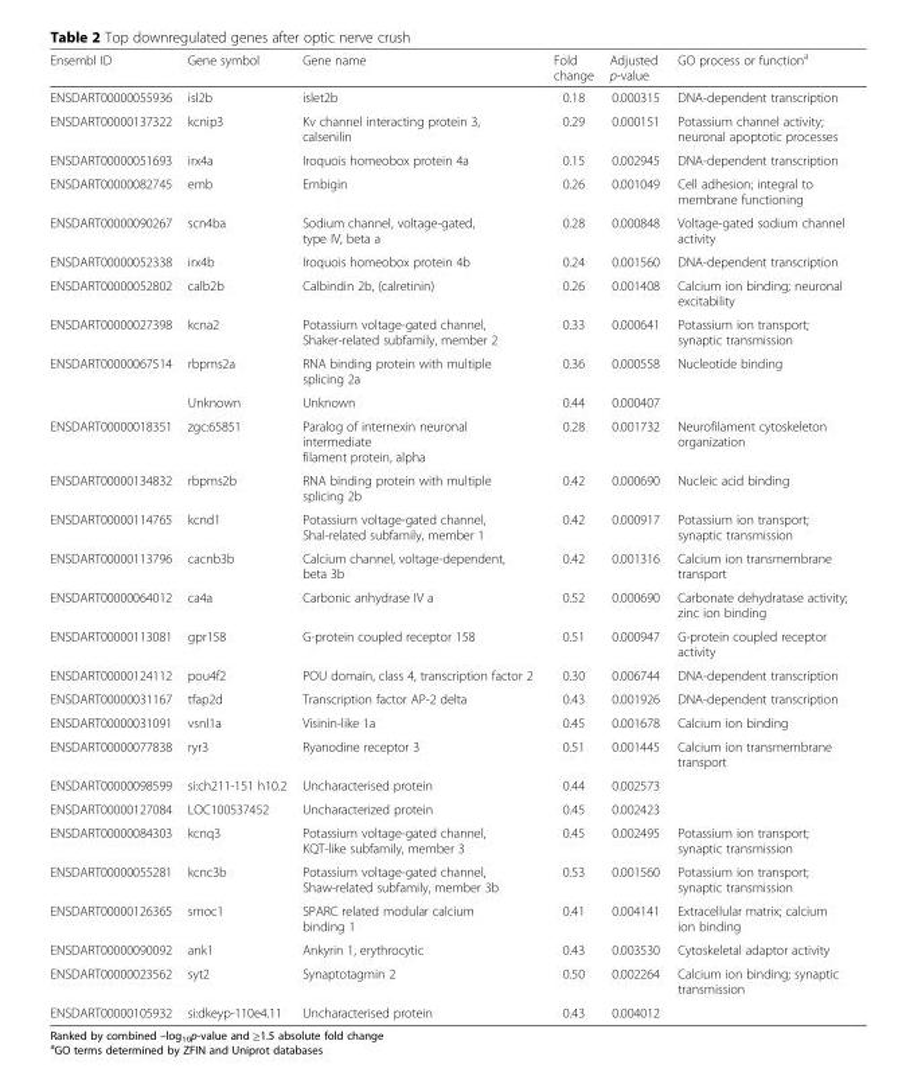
<table><thead><tr><td>Ensembl ID</td><td>Gene symbol</td><td>Gene name</td><td>Fold change</td><td>Adjusted p-value</td><td>GO process or function<sup>a</sup></td></tr></thead><tbody><tr><td>ENSDART00000055936</td><td>isl2b</td><td>islet2b</td><td>0.18</td><td>0.000315</td><td>DNA-dependent transcription</td></tr><tr><td>ENSDART00000137322</td><td>kcnip3</td><td>Kv channel interacting protein 3, calsenilin</td><td>0.29</td><td>0.000151</td><td>Potassium channel activity; neuronal apoptotic processes</td></tr><tr><td>ENSDART00000051693</td><td>irx4a</td><td>Iroquois homeobox protein 4a</td><td>0.15</td><td>0.002945</td><td>DNA-dependent transcription</td></tr><tr><td>ENSDART00000082745</td><td>emb</td><td>Embigin</td><td>0.26</td><td>0.001049</td><td>Cell adhesion; integral to membrane functioning</td></tr><tr><td>ENSDART00000090267</td><td>scn4ba</td><td>Sodium channel, voltage-gated, type IV, beta a</td><td>0.28</td><td>0.000848</td><td>Voltage-gated sodium channel activity</td></tr><tr><td>ENSDART00000052338</td><td>irx4b</td><td>Iroquois homeobox protein 4b</td><td>0.24</td><td>0.001560</td><td>DNA-dependent transcription</td></tr><tr><td>ENSDART00000052802</td><td>calb2b</td><td>Calbindin 2b, (calretinin)</td><td>0.26</td><td>0.001408</td><td>Calcium ion binding; neuronal excitability</td></tr><tr><td>ENSDART00000027398</td><td>kcna2</td><td>Potassium voltage-gated channel, Shaker-related subfamily, member 2</td><td>0.33</td><td>0.000641</td><td>Potassium ion transport; synaptic transmission</td></tr><tr><td rowspan="2">ENSDART00000067514</td><td>rbpms2a</td><td>RNA binding protein with multiple splicing 2a</td><td>0.36</td><td>0.000558</td><td>Nucleotide binding</td></tr><tr><td>Unknown</td><td>Unknown</td><td>0.44</td><td>0.000407</td><td></td></tr><tr><td>ENSDART00000018351</td><td>zgc:65851</td><td>Paralog of internexin neuronal intermediate filament protein, alpha</td><td>0.28</td><td>0.001732</td><td>Neurofilament cytoskeleton organization</td></tr><tr><td>ENSDART00000134832</td><td>rbpms2b</td><td>RNA binding protein with multiple splicing 2b</td><td>0.42</td><td>0.000690</td><td>Nucleic acid binding</td></tr><tr><td>ENSDART00000114765</td><td>kcnd1</td><td>Potassium voltage-gated channel, Shal-related subfamily, member 1</td><td>0.42</td><td>0.000917</td><td>Potassium ion transport; synaptic transmission</td></tr><tr><td>ENSDART00000113796</td><td>cacnb3b</td><td>Calcium channel, voltage-dependent, beta 3b</td><td>0.42</td><td>0.001316</td><td>Calcium ion transmembrane transport</td></tr><tr><td>ENSDART00000064012</td><td>ca4a</td><td>Carbonic anhydrase IV a</td><td>0.52</td><td>0.000690</td><td>Carbonate dehydratase activity; zinc ion binding</td></tr><tr><td>ENSDART00000113081</td><td>gpr158</td><td>G-protein coupled receptor 158</td><td>0.51</td><td>0.000947</td><td>G-protein coupled receptor activity</td></tr><tr><td>ENSDART00000124112</td><td>pou4f2</td><td>POU domain, class 4, transcription factor 2</td><td>0.30</td><td>0.006744</td><td>DNA-dependent transcription</td></tr><tr><td>ENSDART00000031167</td><td>tfap2d</td><td>Transcription factor AP-2 delta</td><td>0.43</td><td>0.001926</td><td>DNA-dependent transcription</td></tr><tr><td>ENSDART00000031091</td><td>vsnl1a</td><td>Visinin-like 1a</td><td>0.45</td><td>0.001678</td><td>Calcium ion binding</td></tr><tr><td>ENSDART00000077838</td><td>ryr3</td><td>Ryanodine receptor 3</td><td>0.51</td><td>0.001445</td><td>Calcium ion transmembrane transport</td></tr><tr><td>ENSDART00000098599</td><td>si:ch211-151 h10.2</td><td>Uncharacterised protein</td><td>0.44</td><td>0.002573</td><td></td></tr><tr><td>ENSDART00000127084</td><td>LOC100537452</td><td>Uncharacterized protein</td><td>0.45</td><td>0.002423</td><td></td></tr><tr><td>ENSDART00000084303</td><td>kcnq3</td><td>Potassium voltage-gated channel, KQT-like subfamily, member 3</td><td>0.45</td><td>0.002495</td><td>Potassium ion transport; synaptic transmission</td></tr><tr><td>ENSDART00000055281</td><td>kcnc3b</td><td>Potassium voltage-gated channel, Shaw-related subfamily, member 3b</td><td>0.53</td><td>0.001560</td><td>Potassium ion transport; synaptic transmission</td></tr><tr><td>ENSDART00000126365</td><td>smoc1</td><td>SPARC related modular calcium binding 1</td><td>0.41</td><td>0.004141</td><td>Extracellular matrix; calcium ion binding</td></tr><tr><td>ENSDART00000090092</td><td>ank1</td><td>Ankyrin 1, erythrocytic</td><td>0.43</td><td>0.003530</td><td>Cytoskeletal adaptor activity</td></tr><tr><td>ENSDART00000023562</td><td>syt2</td><td>Synaptotagmin 2</td><td>0.50</td><td>0.002264</td><td>Calcium ion binding; synaptic transmission</td></tr><tr><td>ENSDART00000105932</td><td>si:dkeyp-110e4.11</td><td>Uncharacterised protein</td><td>0.43</td><td>0.004012</td><td></td></tr></tbody></table>